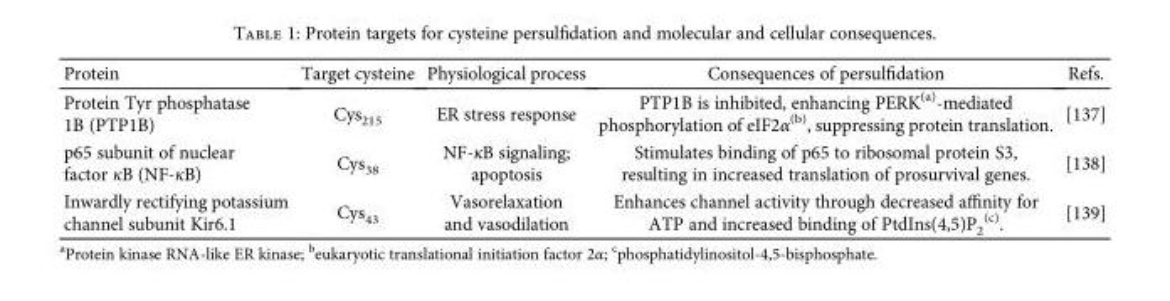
<table><thead><tr><td>Protein</td><td>Target cysteine</td><td>Physiological process</td><td>Consequences of persulfidation</td><td>Refs.</td></tr></thead><tbody><tr><td>Protein Tyr phosphatase 1B (PTP1B)</td><td>Cys<sub>215</sub></td><td>ER stress response</td><td>PTP1B is inhibited, enhancing PERK<sup>(a)</sup>-mediated phosphorylation of eIF2α<sup>(b)</sup>, suppressing protein translation.</td><td>[137]</td></tr><tr><td>p65 subunit of nuclear factor кB (NF-кB)</td><td>Cys<sub>38</sub></td><td>NF-κB signaling; apoptosis</td><td>Stimulates binding of p65 to ribosomal protein S3, resulting in increased translation of prosurvival genes.</td><td>[138]</td></tr><tr><td>Inwardly rectifying potassium channel subunit Kir6.1</td><td>Cys<sub>43</sub></td><td>Vasorelaxation and vasodilation</td><td>Enhances channel activity through decreased affinity for ATP and increased binding of PtdIns(4,5)P<sub>2</sub> <sup>(c)</sup>.</td><td>[139]</td></tr></tbody></table>